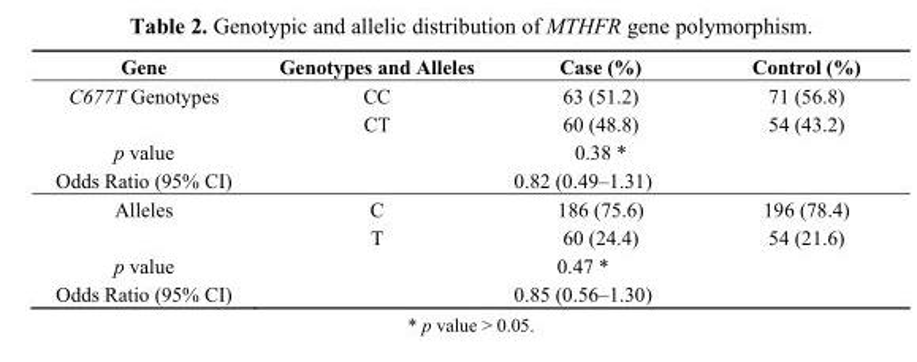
<table><thead><tr><td>Gene</td><td>Genotypes and Alleles</td><td>Case (%)</td><td>Control (%)</td></tr></thead><tbody><tr><td rowspan="2">C677T Genotypes</td><td>CC</td><td>63 (51.2)</td><td>71 (56.8)</td></tr><tr><td>CT</td><td>60 (48.8)</td><td>54 (43.2)</td></tr><tr><td>p value</td><td></td><td>0.38 *</td><td></td></tr><tr><td>Odds Ratio (95% CI)</td><td></td><td>0.82 (0.49–1.31)</td><td></td></tr><tr><td rowspan="2">Alleles</td><td>C</td><td>186 (75.6)</td><td>196 (78.4)</td></tr><tr><td>T</td><td>60 (24.4)</td><td>54 (21.6)</td></tr><tr><td>p value</td><td></td><td>0.47 *</td><td></td></tr><tr><td>Odds Ratio (95% CI)</td><td></td><td>0.85 (0.56–1.30)</td><td></td></tr></tbody></table>